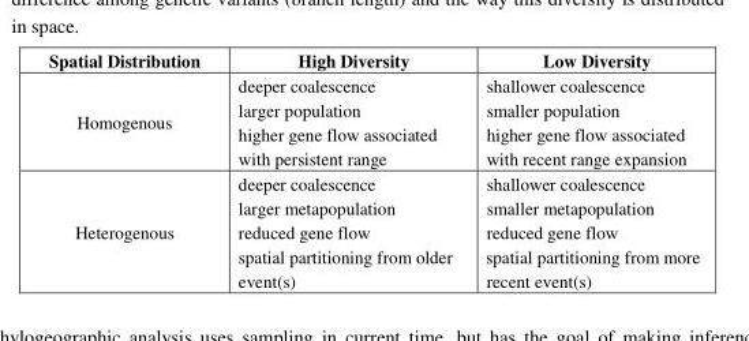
<table><thead><tr><td>Spatial Distribution</td><td>High Diversity</td><td>Low Diversity</td></tr></thead><tbody><tr><td>Homogenous</td><td>deeper coalescence larger population higher gene flow associated with persistent range</td><td>shallower coalescence smaller population higher gene flow associated with recent range expansion</td></tr><tr><td>Heterogenous</td><td>deeper coalescence larger metapopulation reduced gene flow spatial partitioning from older event(s)</td><td>shallower coalescence smaller metapopulation reduced gene flow spatial partitioning from more recent event(s)</td></tr></tbody></table>